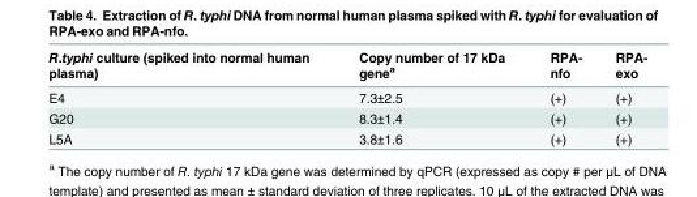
<table><thead><tr><td>R.typhi culture (spiked into normal human plasma)</td><td>Copy number of 17 kDa gene<sup>a</sup></td><td>RPA- nfo</td><td>RPA- exo</td></tr></thead><tbody><tr><td>E4</td><td>7.3±2.5</td><td>(+)</td><td>(+)</td></tr><tr><td>G20</td><td>8.3±1.4</td><td>(+)</td><td>(+)</td></tr><tr><td>L5A</td><td>3.8±1.6</td><td>(+)</td><td>(+)</td></tr></tbody></table>